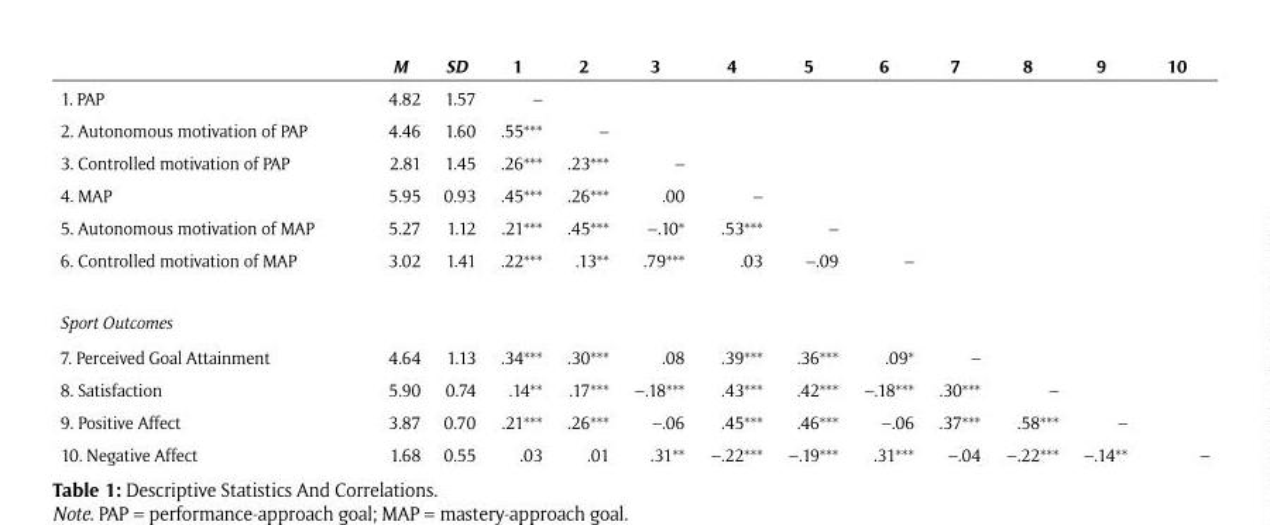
<table><thead><tr><td></td><td>M</td><td>SD</td><td>1</td><td>2</td><td>3</td><td>4</td><td>5</td><td>6</td><td>7</td><td>8</td><td>9</td><td>10</td></tr></thead><tbody><tr><td>1. PAP</td><td>4.82</td><td>1.57</td><td>–</td><td></td><td></td><td></td><td></td><td></td><td></td><td></td><td></td><td></td></tr><tr><td>2. Autonomous motivation of PAP</td><td>4.46</td><td>1.60</td><td>.55***</td><td>–</td><td></td><td></td><td></td><td></td><td></td><td></td><td></td><td></td></tr><tr><td>3. Controlled motivation of PAP</td><td>2.81</td><td>1.45</td><td>.26***</td><td>.23***</td><td>–</td><td></td><td></td><td></td><td></td><td></td><td></td><td></td></tr><tr><td>4. MAP</td><td>5.95</td><td>0.93</td><td>.45***</td><td>.26***</td><td>.00</td><td>–</td><td></td><td></td><td></td><td></td><td></td><td></td></tr><tr><td>5. Autonomous motivation of MAP</td><td>5.27</td><td>1.12</td><td>.21***</td><td>.45***</td><td>–.10*</td><td>.53***</td><td>–</td><td></td><td></td><td></td><td></td><td></td></tr><tr><td>6. Controlled motivation of MAP</td><td>3.02</td><td>1.41</td><td>.22***</td><td>.13**</td><td>.79***</td><td>.03</td><td>–.09</td><td>–</td><td></td><td></td><td></td><td></td></tr><tr><td colspan="13">Sport Outcomes</td></tr><tr><td>7. Perceived Goal Attainment</td><td>4.64</td><td>1.13</td><td>.34***</td><td>.30***</td><td>.08</td><td>.39***</td><td>.36***</td><td>.09*</td><td>–</td><td></td><td></td><td></td></tr><tr><td>8. Satisfaction</td><td>5.90</td><td>0.74</td><td>.14**</td><td>.17***</td><td>–.18***</td><td>.43***</td><td>.42***</td><td>–.18***</td><td>.30***</td><td>–</td><td></td><td></td></tr><tr><td>9. Positive Affect</td><td>3.87</td><td>0.70</td><td>.21***</td><td>.26***</td><td>–.06</td><td>.45***</td><td>.46***</td><td>–.06</td><td>.37***</td><td>.58***</td><td>–</td><td></td></tr><tr><td>10. Negative Affect</td><td>1.68</td><td>0.55</td><td>.03</td><td>.01</td><td>.31**</td><td>–.22***</td><td>–.19***</td><td>.31***</td><td>–.04</td><td>–.22***</td><td>–.14**</td><td>–</td></tr></tbody></table>